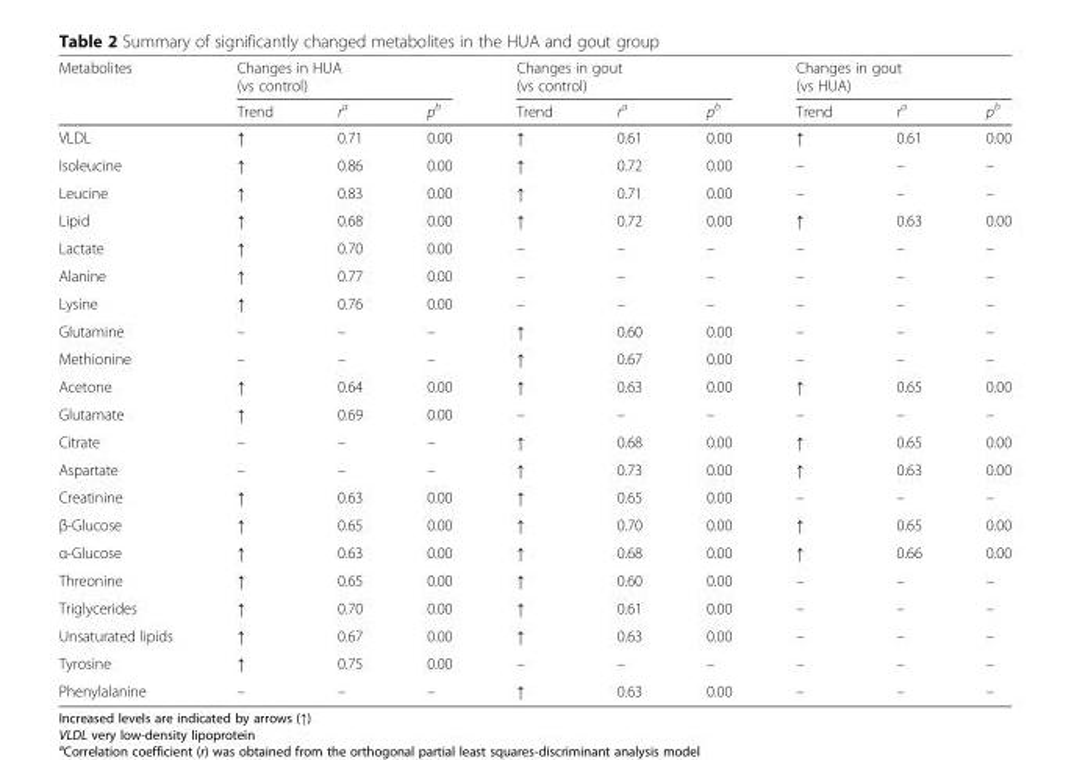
<table><thead><tr><td rowspan="2">Metabolites</td><td colspan="3">Changes in HUA (vs control)</td><td colspan="3">Changes in gout (vs control)</td><td colspan="3">Changes in gout (vs HUA)</td></tr><tr><td>Trend</td><td>r<sup>a</sup></td><td>p<sup>b</sup></td><td>Trend</td><td>r<sup>a</sup></td><td>p<sup>b</sup></td><td>Trend</td><td>r<sup>a</sup></td><td>p<sup>b</sup></td></tr></thead><tbody><tr><td>VLDL</td><td>↑</td><td>0.71</td><td>0.00</td><td>↑</td><td>0.61</td><td>0.00</td><td>↑</td><td>0.61</td><td>0.00</td></tr><tr><td>Isoleucine</td><td>↑</td><td>0.86</td><td>0.00</td><td>↑</td><td>0.72</td><td>0.00</td><td>–</td><td>–</td><td>–</td></tr><tr><td>Leucine</td><td>↑</td><td>0.83</td><td>0.00</td><td>↑</td><td>0.71</td><td>0.00</td><td>–</td><td>–</td><td>–</td></tr><tr><td>Lipid</td><td>↑</td><td>0.68</td><td>0.00</td><td>↑</td><td>0.72</td><td>0.00</td><td>↑</td><td>0.63</td><td>0.00</td></tr><tr><td>Lactate</td><td>↑</td><td>0.70</td><td>0.00</td><td>–</td><td>–</td><td>–</td><td>–</td><td>–</td><td>–</td></tr><tr><td>Alanine</td><td>↑</td><td>0.77</td><td>0.00</td><td>–</td><td>–</td><td>–</td><td>–</td><td>–</td><td>–</td></tr><tr><td>Lysine</td><td>↑</td><td>0.76</td><td>0.00</td><td>–</td><td>–</td><td>–</td><td>–</td><td>–</td><td>–</td></tr><tr><td>Glutamine</td><td>–</td><td>–</td><td>–</td><td>↑</td><td>0.60</td><td>0.00</td><td>–</td><td>–</td><td>–</td></tr><tr><td>Methionine</td><td>–</td><td>–</td><td>–</td><td>↑</td><td>0.67</td><td>0.00</td><td>–</td><td>–</td><td>–</td></tr><tr><td>Acetone</td><td>↑</td><td>0.64</td><td>0.00</td><td>↑</td><td>0.63</td><td>0.00</td><td>↑</td><td>0.65</td><td>0.00</td></tr><tr><td>Glutamate</td><td>↑</td><td>0.69</td><td>0.00</td><td>–</td><td>–</td><td>–</td><td>–</td><td>–</td><td>–</td></tr><tr><td>Citrate</td><td>–</td><td>–</td><td>–</td><td>↑</td><td>0.68</td><td>0.00</td><td>↑</td><td>0.65</td><td>0.00</td></tr><tr><td>Aspartate</td><td>–</td><td>–</td><td>–</td><td>↑</td><td>0.73</td><td>0.00</td><td>↑</td><td>0.63</td><td>0.00</td></tr><tr><td>Creatinine</td><td>↑</td><td>0.63</td><td>0.00</td><td>↑</td><td>0.65</td><td>0.00</td><td>–</td><td>–</td><td>–</td></tr><tr><td>β-Glucose</td><td>↑</td><td>0.65</td><td>0.00</td><td>↑</td><td>0.70</td><td>0.00</td><td>↑</td><td>0.65</td><td>0.00</td></tr><tr><td>α-Glucose</td><td>↑</td><td>0.63</td><td>0.00</td><td>↑</td><td>0.68</td><td>0.00</td><td>↑</td><td>0.66</td><td>0.00</td></tr><tr><td>Threonine</td><td>↑</td><td>0.65</td><td>0.00</td><td>↑</td><td>0.60</td><td>0.00</td><td>–</td><td>–</td><td>–</td></tr><tr><td>Triglycerides</td><td>↑</td><td>0.70</td><td>0.00</td><td>↑</td><td>0.61</td><td>0.00</td><td>–</td><td>–</td><td>–</td></tr><tr><td>Unsaturated lipids</td><td>↑</td><td>0.67</td><td>0.00</td><td>↑</td><td>0.63</td><td>0.00</td><td>–</td><td>–</td><td>–</td></tr><tr><td>Tyrosine</td><td>↑</td><td>0.75</td><td>0.00</td><td>–</td><td>–</td><td>–</td><td>–</td><td>–</td><td>–</td></tr><tr><td>Phenylalanine</td><td>–</td><td>–</td><td>–</td><td>↑</td><td>0.63</td><td>0.00</td><td>–</td><td>–</td><td>–</td></tr></tbody></table>